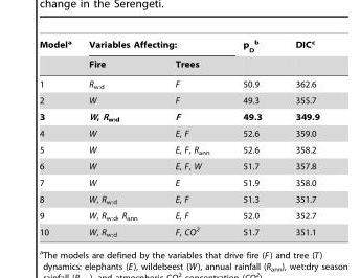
<table><thead><tr><td rowspan="2">Model<sup>a</sup></td><td colspan="2">Variables Affecting:</td><td rowspan="2">p<sub>D</sub> b</td><td rowspan="2">DIC<sup>c</sup></td></tr><tr><td>Fire</td><td>Trees</td></tr></thead><tbody><tr><td>1</td><td>Rw:d</td><td>F</td><td>50.9</td><td>362.6</td></tr><tr><td>2</td><td>W</td><td>F</td><td>49.3</td><td>355.7</td></tr><tr><td>3</td><td>W, Rw:d</td><td>F</td><td>49.3</td><td>349.9</td></tr><tr><td>4</td><td>W</td><td>E, F</td><td>52.6</td><td>359.0</td></tr><tr><td>5</td><td>W</td><td>E, F, R<sub>ann</sub></td><td>52.6</td><td>358.2</td></tr><tr><td>6</td><td>W</td><td>E, F, W</td><td>51.7</td><td>357.8</td></tr><tr><td>7</td><td>W</td><td>E</td><td>51.9</td><td>358.0</td></tr><tr><td>8</td><td>W, Rw:d</td><td>E, F</td><td>51.3</td><td>351.7</td></tr><tr><td>9</td><td>W, Rw:d, Rann</td><td>E, F</td><td>52.0</td><td>352.7</td></tr><tr><td>10</td><td>W, Rw:d</td><td>F, CO<sup>2</sup></td><td>51.7</td><td>351.1</td></tr></tbody></table>